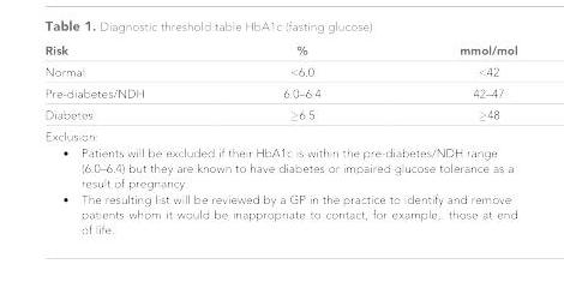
<table><thead><tr><td>Risk</td><td>%</td><td>mmol/mol</td></tr></thead><tbody><tr><td>Normal</td><td>&lt;6.0</td><td>&lt;42</td></tr><tr><td>Pre-diabetes/NDH</td><td>6.0–6.4</td><td>42–47</td></tr><tr><td>Diabetes</td><td>≥6.5</td><td>≥48</td></tr><tr><td colspan="3">Exclusion: . Patients will be excluded if their HbA1c is within the pre-diabetes/NDH range (6.0–6.4) but they are known to have diabetes or impaired glucose tolerance as a result of pregnancy. . The resulting list will be reviewed by a GP in the practice to identify and remove patients whom it would be inappropriate to contact, for example,. those at end of life.</td></tr></tbody></table>